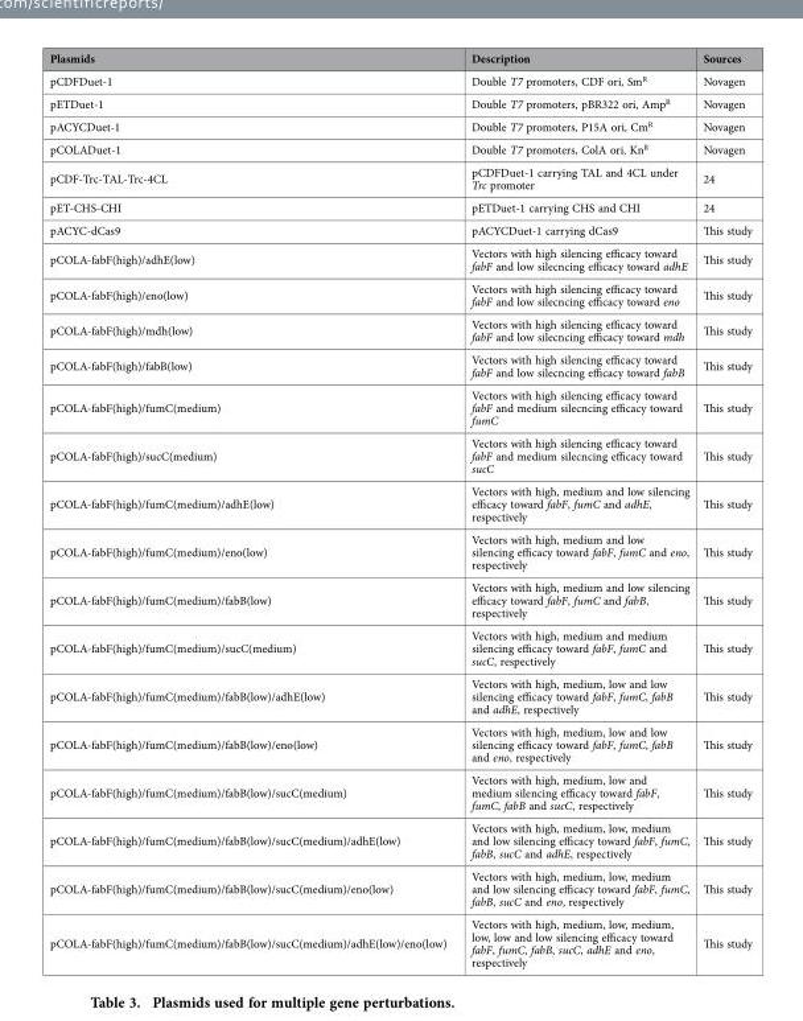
<table><thead><tr><td>Plasmids</td><td>Description</td><td>Sources</td></tr></thead><tbody><tr><td>pCDFDuet-1</td><td>Double T7 promoters, CDF ori, Sm<sup>R</sup></td><td>Novagen</td></tr><tr><td>pETDuet-1</td><td>Double T7 promoters, pBR322 ori, Amp<sup>R</sup></td><td>Novagen</td></tr><tr><td>pACYCDuet-1</td><td>Double T7 promoters, P15A ori, Cm<sup>R</sup></td><td>Novagen</td></tr><tr><td>pCOLADuet-1</td><td>Double T7 promoters, ColA ori, Kn<sup>R</sup></td><td>Novagen</td></tr><tr><td>pCDF-Trc-TAL-Trc-4CL</td><td>pCDFDuet-1 carrying TAL and 4CL under Trc promoter</td><td>24</td></tr><tr><td>pET-CHS-CHI</td><td>pETDuet-1 carrying CHS and CHI</td><td>24</td></tr><tr><td>pACYC-dCas9</td><td>pACYCDuet-1 carrying dCas9</td><td>This study</td></tr><tr><td>pCOLA-fabF(high)/adhE(low)</td><td>Vectors with high silencing efficacy toward fabF and low silecncing efficacy toward adhE</td><td>This study</td></tr><tr><td>pCOLA-fabF(high)/eno(low)</td><td>Vectors with high silencing efficacy toward fabF and low silecncing efficacy toward eno</td><td>This study</td></tr><tr><td>pCOLA-fabF(high)/mdh(low)</td><td>Vectors with high silencing efficacy toward fabF and low silecncing efficacy toward mdh</td><td>This study</td></tr><tr><td>pCOLA-fabF(high)/fabB(low)</td><td>Vectors with high silencing efficacy toward fabF and low silecncing efficacy toward fabB</td><td>This study</td></tr><tr><td>pCOLA-fabF(high)/fumC(medium)</td><td>Vectors with high silencing efficacy toward fabF and medium silecncing efficacy toward fumC</td><td>This study</td></tr><tr><td>pCOLA-fabF(high)/sucC(medium)</td><td>Vectors with high silencing efficacy toward fabF and medium silecncing efficacy toward sucC</td><td>This study</td></tr><tr><td>pCOLA-fabF(high)/fumC(medium)/adhE(low)</td><td>Vectors with high, medium and low silencing efficacy toward fabF, fumC and adhE, respectively</td><td>This study</td></tr><tr><td>pCOLA-fabF(high)/fumC(medium)/eno(low)</td><td>Vectors with high, medium and low silencing efficacy toward fabF, fumC and eno, respectively</td><td>This study</td></tr><tr><td>pCOLA-fabF(high)/fumC(medium)/fabB(low)</td><td>Vectors with high, medium and low silencing efficacy toward fabF, fumC and fabB, respectively</td><td>This study</td></tr><tr><td>pCOLA-fabF(high)/fumC(medium)/sucC(medium)</td><td>Vectors with high, medium and medium silencing efficacy toward fabF, fumC and sucC, respectively</td><td>This study</td></tr><tr><td>pCOLA-fabF(high)/fumC(medium)/fabB(low)/adhE(low)</td><td>Vectors with high, medium, low and low silencing efficacy toward fabF, fumC, fabB and adhE, respectively</td><td>This study</td></tr><tr><td>pCOLA-fabF(high)/fumC(medium)/fabB(low)/eno(low)</td><td>Vectors with high, medium, low and low silencing efficacy toward fabF, fumC, fabB and eno, respectively</td><td>This study</td></tr><tr><td>pCOLA-fabF(high)/fumC(medium)/fabB(low)/sucC(medium)</td><td>Vectors with high, medium, low and medium silencing efficacy toward fabF, fumC, fabB and sucC, respectively</td><td>This study</td></tr><tr><td>pCOLA-fabF(high)/fumC(medium)/fabB(low)/sucC(medium)/adhE(low)</td><td>Vectors with high, medium, low, medium and low silencing efficacy toward fabF, fumC, fabB, sucC and adhE, respectively</td><td>This study</td></tr><tr><td>pCOLA-fabF(high)/fumC(medium)/fabB(low)/sucC(medium)/eno(low)</td><td>Vectors with high, medium, low, medium and low silencing efficacy toward fabF, fumC, fabB, sucC and eno, respectively</td><td>This study</td></tr><tr><td>pCOLA-fabF(high)/fumC(medium)/fabB(low)/sucC(medium)/adhE(low)/eno(low)</td><td>Vectors with high, medium, low, medium, low, low and low silencing efficacy toward fabF, fumC, fabB, sucC, adhE and eno, respectively</td><td>This study</td></tr></tbody></table>